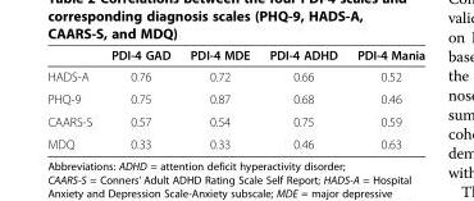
<table><thead><tr><td></td><td>PDI-4 GAD</td><td>PDI-4 MDE</td><td>PDI-4 ADHD</td><td>PDI-4 Mania</td></tr></thead><tbody><tr><td>HADS-A</td><td>0.76</td><td>0.72</td><td>0.66</td><td>0.52</td></tr><tr><td>PHQ-9</td><td>0.75</td><td>0.87</td><td>0.68</td><td>0.46</td></tr><tr><td>CAARS-S</td><td>0.57</td><td>0.54</td><td>0.75</td><td>0.59</td></tr><tr><td>MDQ</td><td>0.33</td><td>0.33</td><td>0.46</td><td>0.63</td></tr></tbody></table>